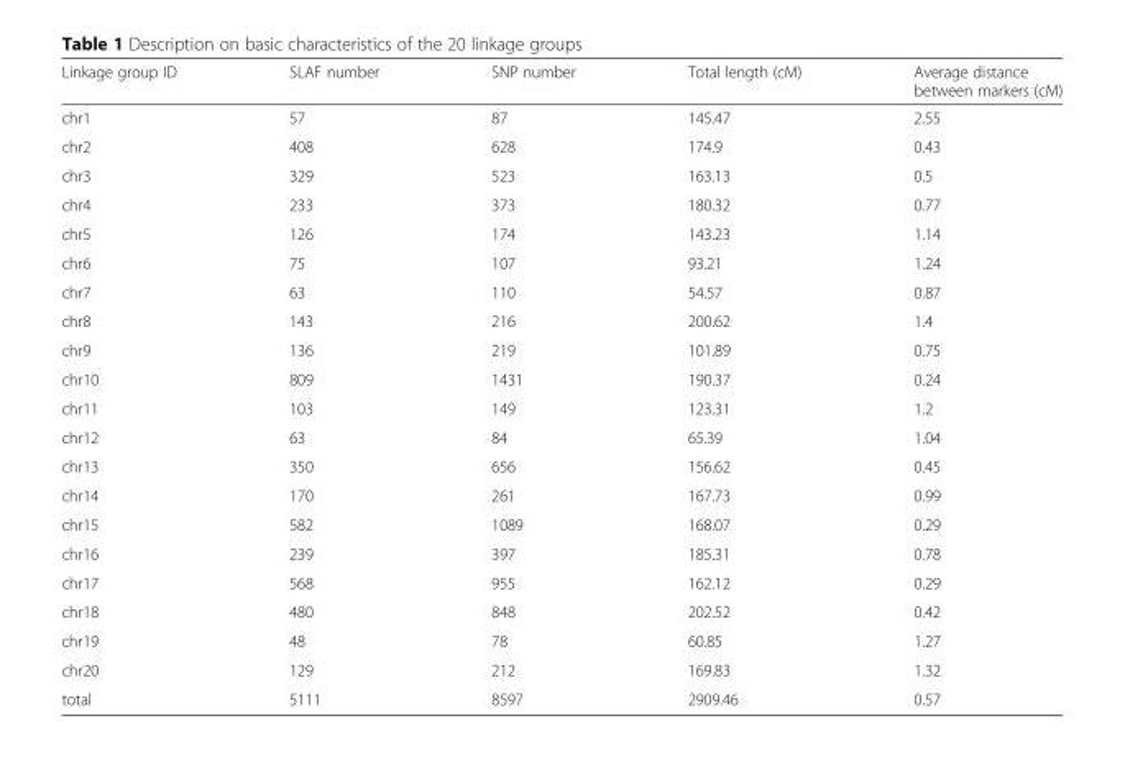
<table><thead><tr><td>Linkage group ID</td><td>SLAF number</td><td>SNP number</td><td>Total length (cM)</td><td>Average distance between markers (cM)</td></tr></thead><tbody><tr><td>chr1</td><td>57</td><td>87</td><td>145.47</td><td>2.55</td></tr><tr><td>chr2</td><td>408</td><td>628</td><td>174.9</td><td>0.43</td></tr><tr><td>chr3</td><td>329</td><td>523</td><td>163.13</td><td>0.5</td></tr><tr><td>chr4</td><td>233</td><td>373</td><td>180.32</td><td>0.77</td></tr><tr><td>chr5</td><td>126</td><td>174</td><td>143.23</td><td>1.14</td></tr><tr><td>chr6</td><td>75</td><td>107</td><td>93.21</td><td>1.24</td></tr><tr><td>chr7</td><td>63</td><td>110</td><td>54.57</td><td>0.87</td></tr><tr><td>chr8</td><td>143</td><td>216</td><td>200.62</td><td>1.4</td></tr><tr><td>chr9</td><td>136</td><td>219</td><td>101.89</td><td>0.75</td></tr><tr><td>chr10</td><td>809</td><td>1431</td><td>190.37</td><td>0.24</td></tr><tr><td>chr11</td><td>103</td><td>149</td><td>123.31</td><td>1.2</td></tr><tr><td>chr12</td><td>63</td><td>84</td><td>65.39</td><td>1.04</td></tr><tr><td>chr13</td><td>350</td><td>656</td><td>156.62</td><td>0.45</td></tr><tr><td>chr14</td><td>170</td><td>261</td><td>167.73</td><td>0.99</td></tr><tr><td>chr15</td><td>582</td><td>1089</td><td>168.07</td><td>0.29</td></tr><tr><td>chr16</td><td>239</td><td>397</td><td>185.31</td><td>0.78</td></tr><tr><td>chr17</td><td>568</td><td>955</td><td>162.12</td><td>0.29</td></tr><tr><td>chr18</td><td>480</td><td>848</td><td>202.52</td><td>0.42</td></tr><tr><td>chr19</td><td>48</td><td>78</td><td>60.85</td><td>1.27</td></tr><tr><td>chr20</td><td>129</td><td>212</td><td>169.83</td><td>1.32</td></tr><tr><td>total</td><td>5111</td><td>8597</td><td>2909.46</td><td>0.57</td></tr></tbody></table>